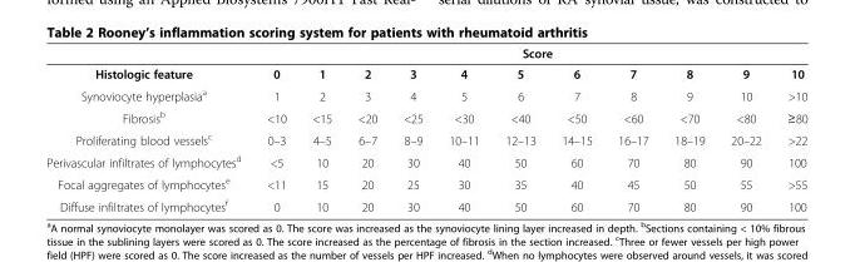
<table><thead><tr><td rowspan="2">Histologic feature</td><td colspan="11">Score</td></tr><tr><td>0</td><td>1</td><td>2</td><td>3</td><td>4</td><td>5</td><td>6</td><td>7</td><td>8</td><td>9</td><td>10</td></tr></thead><tbody><tr><td>Synoviocyte hyperplasia<sup>a</sup></td><td>1</td><td>2</td><td>3</td><td>4</td><td>5</td><td>6</td><td>7</td><td>8</td><td>9</td><td>10</td><td>&gt;10</td></tr><tr><td>Fibrosis<sup>b</sup></td><td>&lt;10</td><td>&lt;15</td><td>&lt;20</td><td>&lt;25</td><td>&lt;30</td><td>&lt;40</td><td>&lt;50</td><td>&lt;60</td><td>&lt;70</td><td>&lt;80</td><td>≥80</td></tr><tr><td>Proliferating blood vessels<sup>c</sup></td><td>0–3</td><td>4–5</td><td>6–7</td><td>8–9</td><td>10–11</td><td>12–13</td><td>14–15</td><td>16–17</td><td>18–19</td><td>20–22</td><td>&gt;22</td></tr><tr><td>Perivascular infiltrates of lymphocytes<sup>d</sup></td><td>&lt;5</td><td>10</td><td>20</td><td>30</td><td>40</td><td>50</td><td>60</td><td>70</td><td>80</td><td>90</td><td>100</td></tr><tr><td>Focal aggregates of lymphocytes<sup>e</sup></td><td>&lt;11</td><td>15</td><td>20</td><td>25</td><td>30</td><td>35</td><td>40</td><td>45</td><td>50</td><td>55</td><td>&gt;55</td></tr><tr><td>Diffuse infiltrates of lymphocytes<sup>f</sup></td><td>0</td><td>10</td><td>20</td><td>30</td><td>40</td><td>50</td><td>60</td><td>70</td><td>80</td><td>90</td><td>100</td></tr></tbody></table>